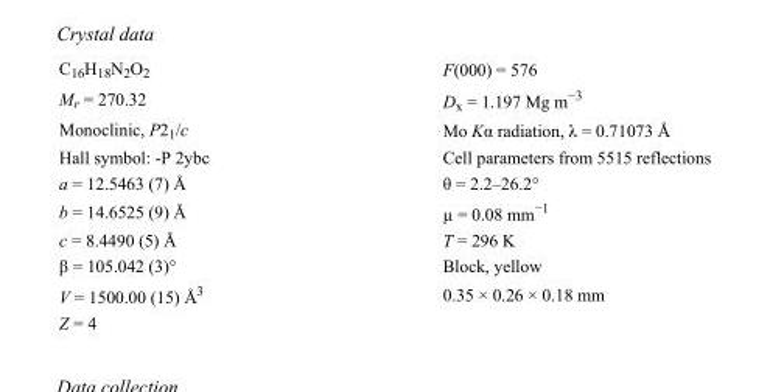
<table><tbody><tr><td>C<sub>16</sub>H<sub>18</sub>N<sub>2</sub>O<sub>2</sub></td><td>F(000) = 576</td></tr><tr><td>M<sub>r</sub> = 270.32</td><td>D<sub>x</sub> = 1.197 Mg m<sup>−3</sup></td></tr><tr><td>Monoclinic, P2<sub>1</sub>/c</td><td>Mo Kα radiation, λ = 0.71073 Å</td></tr><tr><td>Hall symbol: -P 2ybc</td><td>Cell parameters from 5515 reflections</td></tr><tr><td>a = 12.5463 (7) Å</td><td>θ = 2.2–26.2°</td></tr><tr><td>b = 14.6525 (9) Å</td><td>µ = 0.08 mm<sup>−1</sup></td></tr><tr><td>c = 8.4490 (5) Å</td><td>T = 296 K</td></tr><tr><td>β = 105.042 (3)°</td><td>Block, yellow</td></tr><tr><td>V = 1500.00 (15) Å<sup>3</sup></td><td>0.35 × 0.26 × 0.18 mm</td></tr><tr><td>Z = 4</td><td></td></tr></tbody></table>